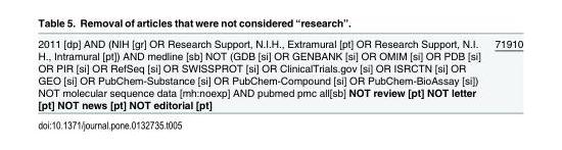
<table><tbody><tr><td>2011 [dp] AND (NIH [gr] OR Research Support, N.I.H., Extramural [pt] OR Research Support, N.I. H., Intramural [pt]) AND medline [sb] NOT (GDB [si] OR GENBANK [si] OR OMIM [si] OR PDB [si] OR PIR [si] OR RefSeq [si] OR SWISSPROT [si] OR ClinicalTrials.gov [si] OR ISRCTN [si] OR GEO [si] OR PubChem-Substance [si] OR PubChem-Compound [si] OR PubChem-BioAssay [si]) NOT molecular sequence data [mh:noexp] AND pubmed pmc all[sb] NOT review [pt] NOT letter [pt] NOT news [pt] NOT editorial [pt]</td><td>71910</td></tr></tbody></table>